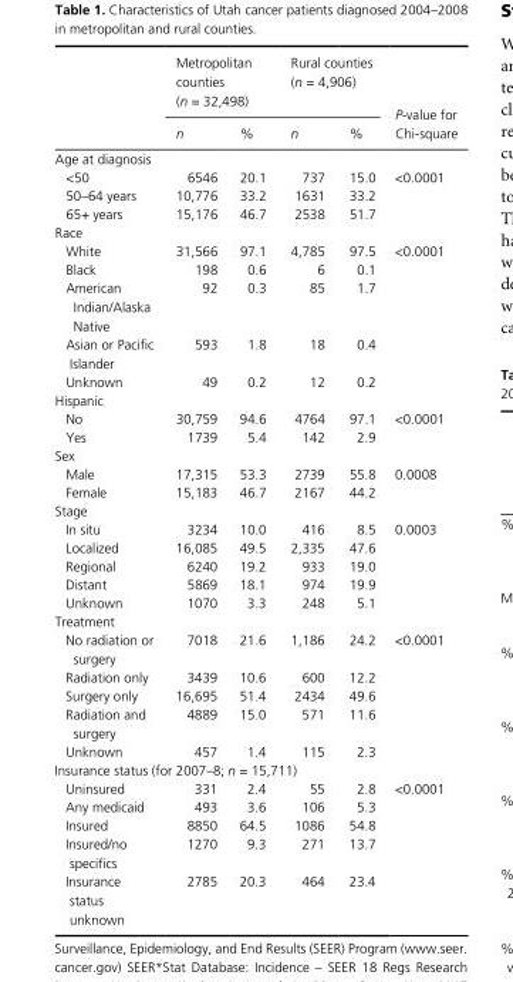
<table><thead><tr><td rowspan="2"></td><td colspan="2">Metropolitan counties (n = 32,498)</td><td colspan="2">Rural counties (n = 4,906)</td><td rowspan="2">P- value for Chi- square</td></tr><tr><td>n</td><td>%</td><td>n</td><td>%</td></tr></thead><tbody><tr><td colspan="6">Age at diagnosis</td></tr><tr><td>&lt;50</td><td>6546</td><td>20.1</td><td>737</td><td>15.0</td><td rowspan="3">&lt;0.0001</td></tr><tr><td>50–64 years</td><td>10,776</td><td>33.2</td><td>1631</td><td>33.2</td></tr><tr><td>65+ years</td><td>15,176</td><td>46.7</td><td>2538</td><td>51.7</td></tr><tr><td colspan="6">Race</td></tr><tr><td>White</td><td>31,566</td><td>97.1</td><td>4,785</td><td>97.5</td><td rowspan="5">&lt;0.0001</td></tr><tr><td>Black</td><td>198</td><td>0.6</td><td>6</td><td>0.1</td></tr><tr><td>American Indian/Alaska Native</td><td>92</td><td>0.3</td><td>85</td><td>1.7</td></tr><tr><td>Asian or Pacific Islander</td><td>593</td><td>1.8</td><td>18</td><td>0.4</td></tr><tr><td>Unknown</td><td>49</td><td>0.2</td><td>12</td><td>0.2</td></tr><tr><td colspan="6">Hispanic</td></tr><tr><td>No</td><td>30,759</td><td>94.6</td><td>4764</td><td>97.1</td><td rowspan="2">&lt;0.0001</td></tr><tr><td>Yes</td><td>1739</td><td>5.4</td><td>142</td><td>2.9</td></tr><tr><td colspan="6">Sex</td></tr><tr><td>Male</td><td>17,315</td><td>53.3</td><td>2739</td><td>55.8</td><td rowspan="2">0.0008</td></tr><tr><td>Female</td><td>15,183</td><td>46.7</td><td>2167</td><td>44.2</td></tr><tr><td colspan="6">Stage</td></tr><tr><td>In situ</td><td>3234</td><td>10.0</td><td>416</td><td>8.5</td><td rowspan="5">0.0003</td></tr><tr><td>Localized</td><td>16,085</td><td>49.5</td><td>2,335</td><td>47.6</td></tr><tr><td>Regional</td><td>6240</td><td>19.2</td><td>933</td><td>19.0</td></tr><tr><td>Distant</td><td>5869</td><td>18.1</td><td>974</td><td>19.9</td></tr><tr><td>Unknown</td><td>1070</td><td>3.3</td><td>248</td><td>5.1</td></tr><tr><td colspan="6">Treatment</td></tr><tr><td>No radiation or surgery</td><td>7018</td><td>21.6</td><td>1,186</td><td>24.2</td><td rowspan="5">&lt;0.0001</td></tr><tr><td>Radiation only</td><td>3439</td><td>10.6</td><td>600</td><td>12.2</td></tr><tr><td>Surgery only</td><td>16,695</td><td>51.4</td><td>2434</td><td>49.6</td></tr><tr><td>Radiation and surgery</td><td>4889</td><td>15.0</td><td>571</td><td>11.6</td></tr><tr><td>Unknown</td><td>457</td><td>1.4</td><td>115</td><td>2.3</td></tr><tr><td colspan="6">Insurance status (for 2007–8; n = 15,711)</td></tr><tr><td>Uninsured</td><td>331</td><td>2.4</td><td>55</td><td>2.8</td><td rowspan="5">&lt;0.0001</td></tr><tr><td>Any medicaid</td><td>493</td><td>3.6</td><td>106</td><td>5.3</td></tr><tr><td>Insured</td><td>8850</td><td>64.5</td><td>1086</td><td>54.8</td></tr><tr><td>Insured/no specifics</td><td>1270</td><td>9.3</td><td>271</td><td>13.7</td></tr><tr><td>Insurance status unknown</td><td>2785</td><td>20.3</td><td>464</td><td>23.4</td></tr></tbody></table>